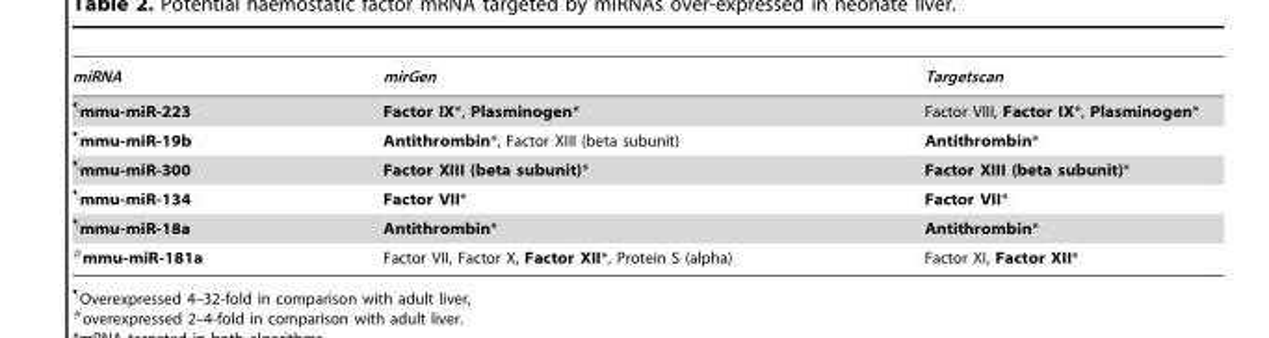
<table><thead><tr><td>miRNA</td><td>mirGen</td><td>Targetscan</td></tr></thead><tbody><tr><td>¶mmu-miR-223</td><td>Factor IX*, Plasminogen*</td><td>Factor VIII, Factor IX*, Plasminogen*</td></tr><tr><td>¶mmu-miR-19b</td><td>Antithrombin*, Factor XIII (beta subunit)</td><td>Antithrombin*</td></tr><tr><td>¶mmu-miR-300</td><td>Factor XIII (beta subunit)*</td><td>Factor XIII (beta subunit)*</td></tr><tr><td>¶mmu-miR-134</td><td>Factor VII*</td><td>Factor VII*</td></tr><tr><td>¶mmu-miR-18a</td><td>Antithrombin*</td><td>Antithrombin*</td></tr><tr><td>#mmu-miR-181a</td><td>Factor VII, Factor X, Factor XII*, Protein S (alpha)</td><td>Factor XI, Factor XII*</td></tr></tbody></table>